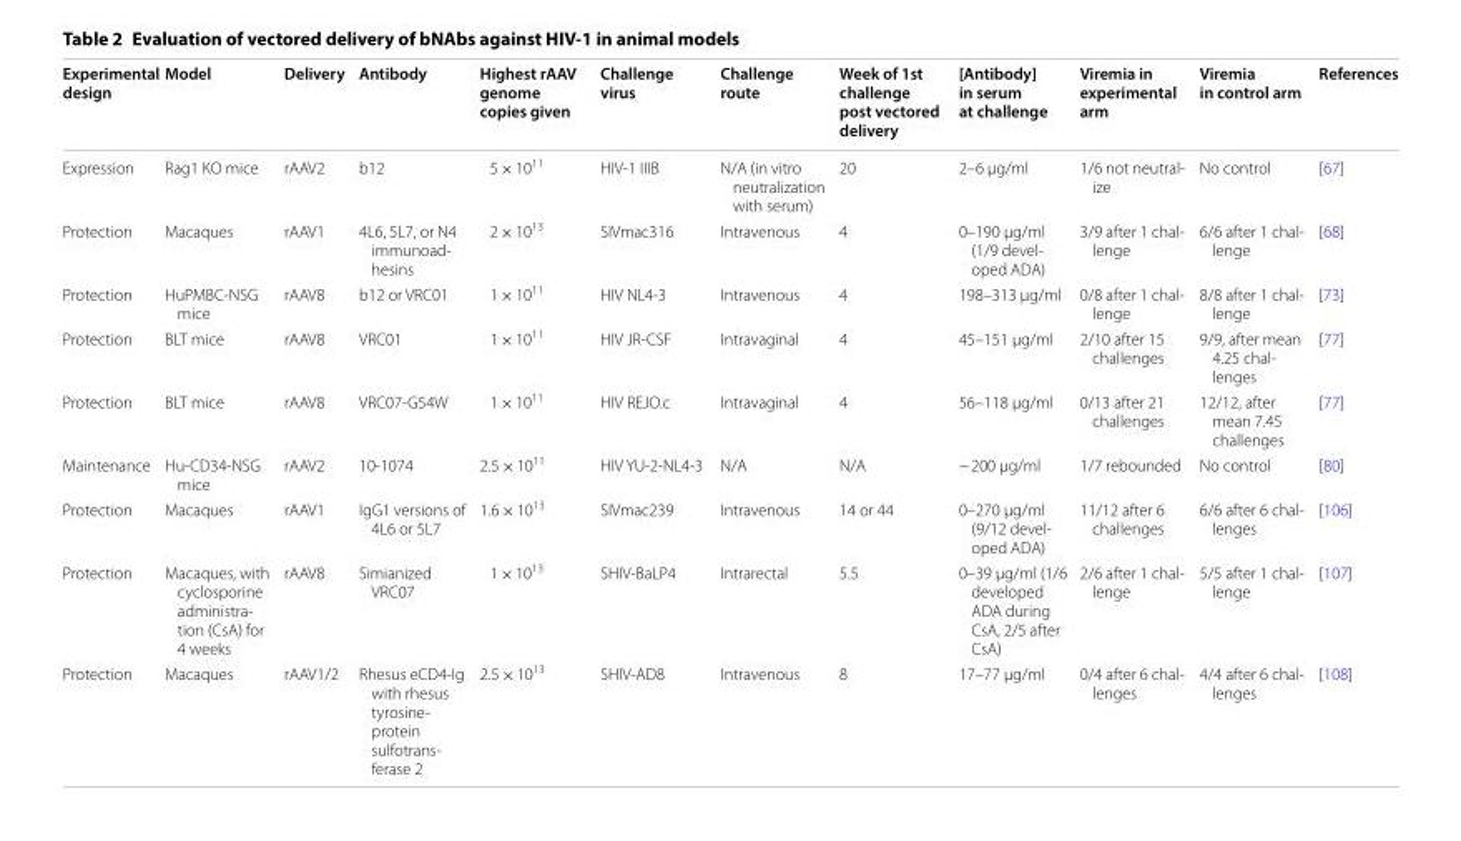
<table><thead><tr><td>Experimental design</td><td>Model</td><td>Delivery</td><td>Antibody</td><td>Highest rAAV genome copies given</td><td>Challenge virus</td><td>Challenge route</td><td>Week of 1st challenge post vectored delivery</td><td>[Antibody] in serum at challenge</td><td>Viremia in experimental arm</td><td>Viremia in control arm</td><td>References</td></tr></thead><tbody><tr><td>Expression</td><td>Rag1 KO mice</td><td>rAAV2</td><td>b12</td><td>5 × 10<sup>11</sup></td><td>HIV-1 IIIB</td><td>N/A (in vitro neutralization with serum)</td><td>20</td><td>2–6 μg/ml</td><td>1/6 not neutral- ize</td><td>No control</td><td>[67]</td></tr><tr><td>Protection</td><td>Macaques</td><td>rAAV1</td><td>4L6, 5L7, or N4 immunoad- hesins</td><td>2 × 10<sup>13</sup></td><td>SIVmac316</td><td>Intravenous</td><td>4</td><td>0–190 μg/ml (1/9 devel- oped ADA)</td><td>3/9 after 1 chal- lenge</td><td>6/6 after 1 chal- lenge</td><td>[68]</td></tr><tr><td>Protection</td><td>HuPMBC-NSG mice</td><td>rAAV8</td><td>b12 or VRC01</td><td>1 × 10<sup>11</sup></td><td>HIV NL4-3</td><td>Intravenous</td><td>4</td><td>198–313 μg/ml</td><td>0/8 after 1 chal- lenge</td><td>8/8 after 1 chal- lenge</td><td>[73]</td></tr><tr><td>Protection</td><td>BLT mice</td><td>rAAV8</td><td>VRC01</td><td>1 × 10<sup>11</sup></td><td>HIV JR-CSF</td><td>Intravaginal</td><td>4</td><td>45–151 μg/ml</td><td>2/10 after 15 challenges</td><td>9/9, after mean 4.25 chal- lenges</td><td>[77]</td></tr><tr><td>Protection</td><td>BLT mice</td><td>rAAV8</td><td>VRC07-G54W</td><td>1 × 10<sup>11</sup></td><td>HIV REJO.c</td><td>Intravaginal</td><td>4</td><td>56–118 μg/ml</td><td>0/13 after 21 challenges</td><td>12/12, after mean 7.45 challenges</td><td>[77]</td></tr><tr><td>Maintenance</td><td>Hu-CD34-NSG mice</td><td>rAAV2</td><td>10-1074</td><td>2.5 × 10<sup>11</sup></td><td>HIV YU-2-NL4-3</td><td>N/A</td><td>N/A</td><td>~ 200 μg/ml</td><td>1/7 rebounded</td><td>No control</td><td>[80]</td></tr><tr><td>Protection</td><td>Macaques</td><td>rAAV1</td><td>IgG1 versions of 4L6 or 5L7</td><td>1.6 × 10<sup>13</sup></td><td>SIVmac239</td><td>Intravenous</td><td>14 or 44</td><td>0–270 μg/ml (9/12 devel- oped ADA)</td><td>11/12 after 6 challenges</td><td>6/6 after 6 chal- lenges</td><td>[106]</td></tr><tr><td>Protection</td><td>Macaques, with cyclosporine administra- tion (CsA) for 4 weeks</td><td>rAAV8</td><td>Simianized VRC07</td><td>1 × 10<sup>13</sup></td><td>SHIV-BaLP4</td><td>Intrarectal</td><td>5.5</td><td>0–39 μg/ml (1/6 developed ADA during CsA, 2/5 after CsA)</td><td>2/6 after 1 chal- lenge</td><td>5/5 after 1 chal- lenge</td><td>[107]</td></tr><tr><td>Protection</td><td>Macaques</td><td>rAAV1/2</td><td>Rhesus eCD4-Ig with rhesus tyrosine- protein sulfotrans- ferase 2</td><td>2.5 × 10<sup>13</sup></td><td>SHIV-AD8</td><td>Intravenous</td><td>8</td><td>17–77 μg/ml</td><td>0/4 after 6 chal- lenges</td><td>4/4 after 6 chal- lenges</td><td>[108]</td></tr></tbody></table>